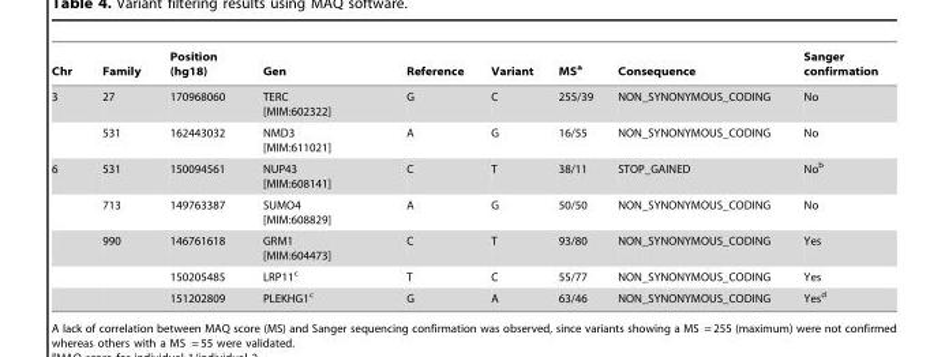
<table><thead><tr><td>Chr</td><td>Family</td><td>Position (hg18)</td><td>Gen</td><td>Reference</td><td>Variant</td><td>MS<sup>a</sup></td><td>Consequence</td><td>Sanger confirmation</td></tr></thead><tbody><tr><td rowspan="2">3</td><td>27</td><td>170968060</td><td>TERC [MIM:602322]</td><td>G</td><td>C</td><td>255/39</td><td>NON_SYNONYMOUS_CODING</td><td>No</td></tr><tr><td>531</td><td>162443032</td><td>NMD3 [MIM:611021]</td><td>A</td><td>G</td><td>16/55</td><td>NON_SYNONYMOUS_CODING</td><td>No</td></tr><tr><td rowspan="5">6</td><td>531</td><td>150094561</td><td>NUP43 [MIM:608141]</td><td>C</td><td>T</td><td>38/11</td><td>STOP_GAINED</td><td>No<sup>b</sup></td></tr><tr><td>713</td><td>149763387</td><td>SUMO4 [MIM:608829]</td><td>A</td><td>G</td><td>50/50</td><td>NON_SYNONYMOUS_CODING</td><td>No</td></tr><tr><td>990</td><td>146761618</td><td>GRM1 [MIM:604473]</td><td>C</td><td>T</td><td>93/80</td><td>NON_SYNONYMOUS_CODING</td><td>Yes</td></tr><tr><td></td><td>150205485</td><td>LRP11<sup>c</sup></td><td>T</td><td>C</td><td>55/77</td><td>NON_SYNONYMOUS_CODING</td><td>Yes</td></tr><tr><td></td><td>151202809</td><td>PLEKHG1<sup>c</sup></td><td>G</td><td>A</td><td>63/46</td><td>NON_SYNONYMOUS_CODING</td><td>Yes<sup>d</sup></td></tr></tbody></table>